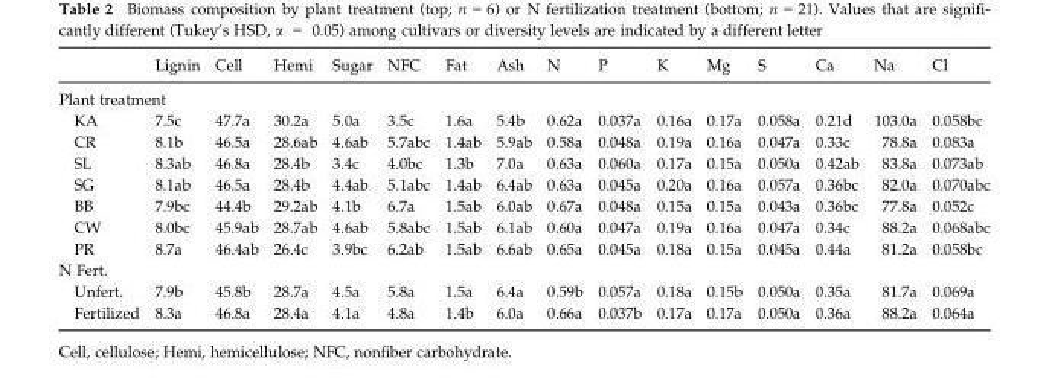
<table><thead><tr><td></td><td>Lignin</td><td>Cell</td><td>Hemi</td><td>Sugar</td><td>NFC</td><td>Fat</td><td>Ash</td><td>N</td><td>P</td><td>K</td><td>Mg</td><td>S</td><td>Ca</td><td>Na</td><td>Cl</td></tr></thead><tbody><tr><td colspan="16">Plant treatment</td></tr><tr><td>KA</td><td>7.5c</td><td>47.7a</td><td>30.2a</td><td>5.0a</td><td>3.5c</td><td>1.6a</td><td>5.4b</td><td>0.62a</td><td>0.037a</td><td>0.16a</td><td>0.17a</td><td>0.058a</td><td>0.21d</td><td>103.0a</td><td>0.058bc</td></tr><tr><td>CR</td><td>8.1b</td><td>46.5a</td><td>28.6ab</td><td>4.6ab</td><td>5.7abc</td><td>1.4ab</td><td>5.9ab</td><td>0.58a</td><td>0.048a</td><td>0.19a</td><td>0.16a</td><td>0.047a</td><td>0.33c</td><td>78.8a</td><td>0.083a</td></tr><tr><td>SL</td><td>8.3ab</td><td>46.8a</td><td>28.4b</td><td>3.4c</td><td>4.0bc</td><td>1.3b</td><td>7.0a</td><td>0.63a</td><td>0.060a</td><td>0.17a</td><td>0.15a</td><td>0.050a</td><td>0.42ab</td><td>83.8a</td><td>0.073ab</td></tr><tr><td>SG</td><td>8.1ab</td><td>46.5a</td><td>28.4b</td><td>4.4ab</td><td>5.1abc</td><td>1.4ab</td><td>6.4ab</td><td>0.63a</td><td>0.045a</td><td>0.20a</td><td>0.16a</td><td>0.057a</td><td>0.36bc</td><td>82.0a</td><td>0.070abc</td></tr><tr><td>BB</td><td>7.9bc</td><td>44.4b</td><td>29.2ab</td><td>4.1b</td><td>6.7a</td><td>1.5ab</td><td>6.0ab</td><td>0.67a</td><td>0.048a</td><td>0.15a</td><td>0.15a</td><td>0.043a</td><td>0.36bc</td><td>77.8a</td><td>0.052c</td></tr><tr><td>CW</td><td>8.0bc</td><td>45.9ab</td><td>28.7ab</td><td>4.6ab</td><td>5.8abc</td><td>1.5ab</td><td>6.1ab</td><td>0.60a</td><td>0.047a</td><td>0.19a</td><td>0.16a</td><td>0.047a</td><td>0.34c</td><td>88.2a</td><td>0.068abc</td></tr><tr><td>PR</td><td>8.7a</td><td>46.4ab</td><td>26.4c</td><td>3.9bc</td><td>6.2ab</td><td>1.5ab</td><td>6.6ab</td><td>0.65a</td><td>0.045a</td><td>0.18a</td><td>0.15a</td><td>0.045a</td><td>0.44a</td><td>81.2a</td><td>0.058bc</td></tr><tr><td colspan="16">N Fert.</td></tr><tr><td>Unfert.</td><td>7.9b</td><td>45.8b</td><td>28.7a</td><td>4.5a</td><td>5.8a</td><td>1.5a</td><td>6.4a</td><td>0.59b</td><td>0.057a</td><td>0.18a</td><td>0.15b</td><td>0.050a</td><td>0.35a</td><td>81.7a</td><td>0.069a</td></tr><tr><td>Fertilized</td><td>8.3a</td><td>46.8a</td><td>28.4a</td><td>4.1a</td><td>4.8a</td><td>1.4b</td><td>6.0a</td><td>0.66a</td><td>0.037b</td><td>0.17a</td><td>0.17a</td><td>0.050a</td><td>0.36a</td><td>88.2a</td><td>0.064a</td></tr></tbody></table>